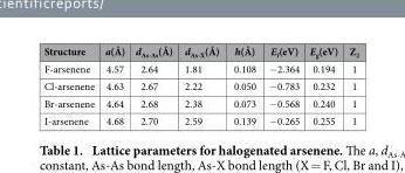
<table><thead><tr><td>Structure</td><td>a(Å)</td><td>d<sub>As-As</sub>(Å)</td><td>d<sub>As-X</sub>(Å)</td><td>h(Å)</td><td>E<sub>f</sub>(eV)</td><td>E<sub>g</sub>(eV)</td><td>Z<sub>2</sub></td></tr></thead><tbody><tr><td>F-arsenene</td><td>4.57</td><td>2.64</td><td>1.81</td><td>0.108</td><td>− 2.364</td><td>0.194</td><td>1</td></tr><tr><td>Cl-arsenene</td><td>4.63</td><td>2.67</td><td>2.22</td><td>0.050</td><td>− 0.783</td><td>0.232</td><td>1</td></tr><tr><td>Br-arsenene</td><td>4.64</td><td>2.68</td><td>2.38</td><td>0.073</td><td>− 0.568</td><td>0.240</td><td>1</td></tr><tr><td>I-arsenene</td><td>4.68</td><td>2.70</td><td>2.59</td><td>0.139</td><td>− 0.265</td><td>0.255</td><td>1</td></tr></tbody></table>